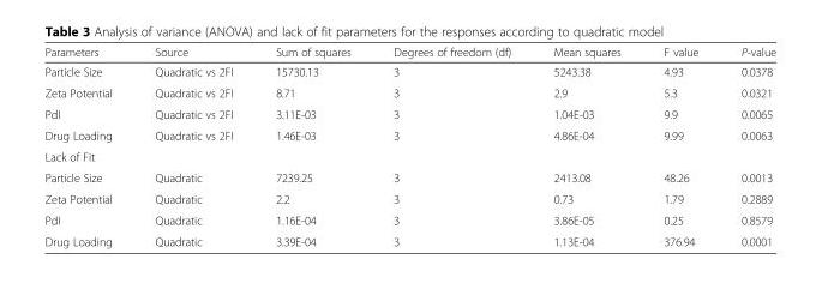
<table><thead><tr><td>Parameters</td><td>Source</td><td>Sum of squares</td><td>Degrees of freedom (df)</td><td>Mean squares</td><td>F value</td><td>P-value</td></tr></thead><tbody><tr><td>Particle Size</td><td>Quadratic vs 2FI</td><td>15730.13</td><td>3</td><td>5243.38</td><td>4.93</td><td>0.0378</td></tr><tr><td>Zeta Potential</td><td>Quadratic vs 2FI</td><td>8.71</td><td>3</td><td>2.9</td><td>5.3</td><td>0.0321</td></tr><tr><td>PdI</td><td>Quadratic vs 2FI</td><td>3.11E-03</td><td>3</td><td>1.04E-03</td><td>9.9</td><td>0.0065</td></tr><tr><td>Drug Loading</td><td>Quadratic vs 2FI</td><td>1.46E-03</td><td>3</td><td>4.86E-04</td><td>9.99</td><td>0.0063</td></tr><tr><td colspan="7">Lack of Fit</td></tr><tr><td>Particle Size</td><td>Quadratic</td><td>7239.25</td><td>3</td><td>2413.08</td><td>48.26</td><td>0.0013</td></tr><tr><td>Zeta Potential</td><td>Quadratic</td><td>2.2</td><td>3</td><td>0.73</td><td>1.79</td><td>0.2889</td></tr><tr><td>PdI</td><td>Quadratic</td><td>1.16E-04</td><td>3</td><td>3.86E-05</td><td>0.25</td><td>0.8579</td></tr><tr><td>Drug Loading</td><td>Quadratic</td><td>3.39E-04</td><td>3</td><td>1.13E-04</td><td>376.94</td><td>0.0001</td></tr></tbody></table>